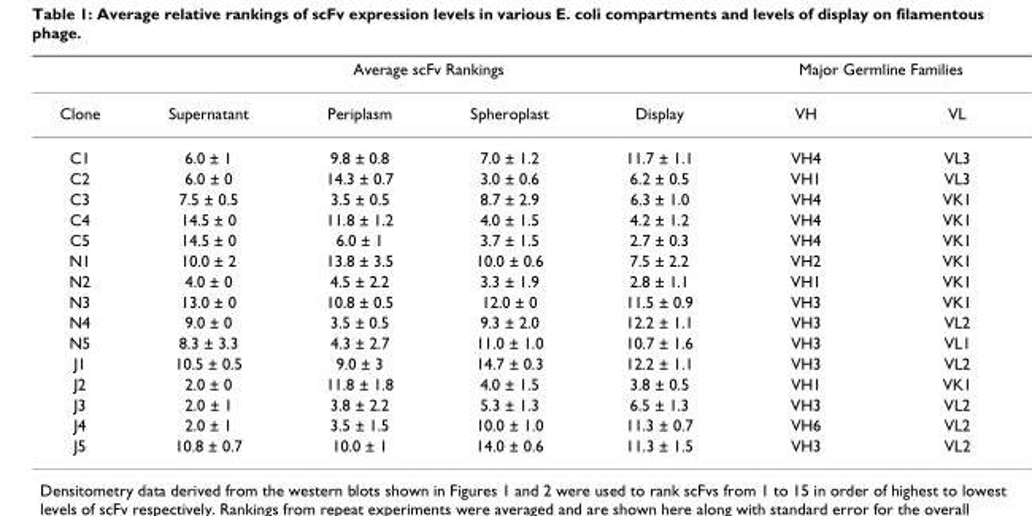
<table><thead><tr><td rowspan="2">Clone</td><td colspan="4">Average scFv Rankings</td><td colspan="2">Major Germline Families</td></tr><tr><td>Supernatant</td><td>Periplasm</td><td>Spheroplast</td><td>Display</td><td>VH</td><td>VL</td></tr></thead><tbody><tr><td>C1</td><td>6.0 ± 1</td><td>9.8 ± 0.8</td><td>7.0 ± 1.2</td><td>11.7 ± 1.1</td><td>VH4</td><td>VL3</td></tr><tr><td>C2</td><td>6.0 ± 0</td><td>14.3 ± 0.7</td><td>3.0 ± 0.6</td><td>6.2 ± 0.5</td><td>VH1</td><td>VL3</td></tr><tr><td>C3</td><td>7.5 ± 0.5</td><td>3.5 ± 0.5</td><td>8.7 ± 2.9</td><td>6.3 ± 1.0</td><td>VH4</td><td>VK1</td></tr><tr><td>C4</td><td>14.5 ± 0</td><td>11.8 ± 1.2</td><td>4.0 ± 1.5</td><td>4.2 ± 1.2</td><td>VH4</td><td>VK1</td></tr><tr><td>C5</td><td>14.5 ± 0</td><td>6.0 ± 1</td><td>3.7 ± 1.5</td><td>2.7 ± 0.3</td><td>VH4</td><td>VK1</td></tr><tr><td>N1</td><td>10.0 ± 2</td><td>13.8 ± 3.5</td><td>10.0 ± 0.6</td><td>7.5 ± 2.2</td><td>VH2</td><td>VK1</td></tr><tr><td>N2</td><td>4.0 ± 0</td><td>4.5 ± 2.2</td><td>3.3 ± 1.9</td><td>2.8 ± 1.1</td><td>VH1</td><td>VK1</td></tr><tr><td>N3</td><td>13.0 ± 0</td><td>10.8 ± 0.5</td><td>12.0 ± 0</td><td>11.5 ± 0.9</td><td>VH3</td><td>VK1</td></tr><tr><td>N4</td><td>9.0 ± 0</td><td>3.5 ± 0.5</td><td>9.3 ± 2.0</td><td>12.2 ± 1.1</td><td>VH3</td><td>VL2</td></tr><tr><td>N5</td><td>8.3 ± 3.3</td><td>4.3 ± 2.7</td><td>11.0 ± 1.0</td><td>10.7 ± 1.6</td><td>VH3</td><td>VL1</td></tr><tr><td>J1</td><td>10.5 ± 0.5</td><td>9.0 ± 3</td><td>14.7 ± 0.3</td><td>12.2 ± 1.1</td><td>VH3</td><td>VL2</td></tr><tr><td>J2</td><td>2.0 ± 0</td><td>11.8 ± 1.8</td><td>4.0 ± 1.5</td><td>3.8 ± 0.5</td><td>VH1</td><td>VK1</td></tr><tr><td>J3</td><td>2.0 ± 1</td><td>3.8 ± 2.2</td><td>5.3 ± 1.3</td><td>6.5 ± 1.3</td><td>VH3</td><td>VL2</td></tr><tr><td>J4</td><td>2.0 ± 1</td><td>3.5 ± 1.5</td><td>10.0 ± 1.0</td><td>11.3 ± 0.7</td><td>VH6</td><td>VL2</td></tr><tr><td>J5</td><td>10.8 ± 0.7</td><td>10.0 ± 1</td><td>14.0 ± 0.6</td><td>11.3 ± 1.5</td><td>VH3</td><td>VL2</td></tr></tbody></table>